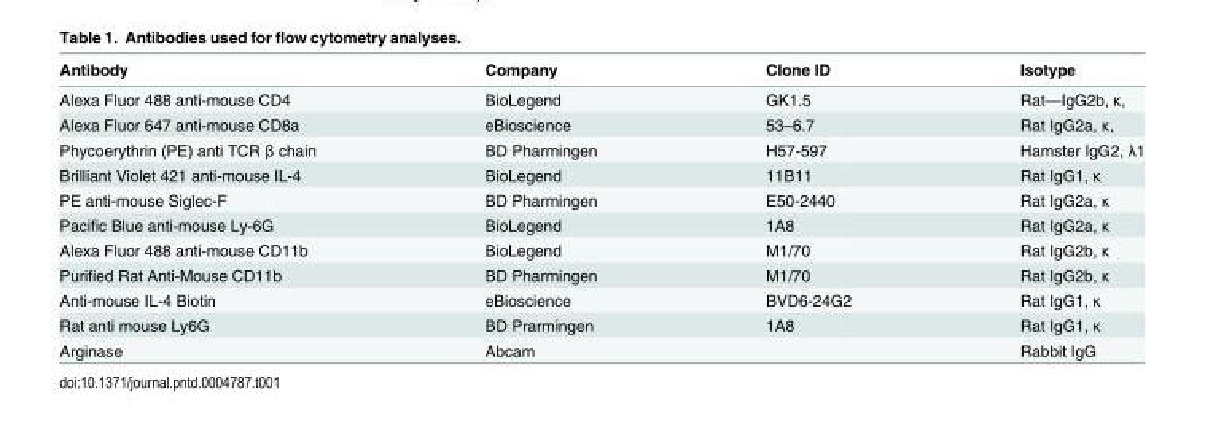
<table><thead><tr><td>Antibody</td><td>Company</td><td>Clone ID</td><td>Isotype</td></tr></thead><tbody><tr><td>Alexa Fluor 488 anti-mouse CD4</td><td>BioLegend</td><td>GK1.5</td><td>Rat—IgG2b, κ,</td></tr><tr><td>Alexa Fluor 647 anti-mouse CD8a</td><td>eBioscience</td><td>53–6.7</td><td>Rat IgG2a, κ,</td></tr><tr><td>Phycoerythrin (PE) anti TCR β chain</td><td>BD Pharmingen</td><td>H57-597</td><td>Hamster IgG2, λ1</td></tr><tr><td>Brilliant Violet 421 anti-mouse IL-4</td><td>BioLegend</td><td>11B11</td><td>Rat IgG1, κ</td></tr><tr><td>PE anti-mouse Siglec-F</td><td>BD Pharmingen</td><td>E50-2440</td><td>Rat IgG2a, κ</td></tr><tr><td>Pacific Blue anti-mouse Ly-6G</td><td>BioLegend</td><td>1A8</td><td>Rat IgG2a, κ</td></tr><tr><td>Alexa Fluor 488 anti-mouse CD11b</td><td>BioLegend</td><td>M1/70</td><td>Rat IgG2b, κ</td></tr><tr><td>Purified Rat Anti-Mouse CD11b</td><td>BD Pharmingen</td><td>M1/70</td><td>Rat IgG2b, κ</td></tr><tr><td>Anti-mouse IL-4 Biotin</td><td>eBioscience</td><td>BVD6-24G2</td><td>Rat IgG1, κ</td></tr><tr><td>Rat anti mouse Ly6G</td><td>BD Prarmingen</td><td>1A8</td><td>Rat IgG1, κ</td></tr><tr><td>Arginase</td><td>Abcam</td><td></td><td>Rabbit IgG</td></tr></tbody></table>